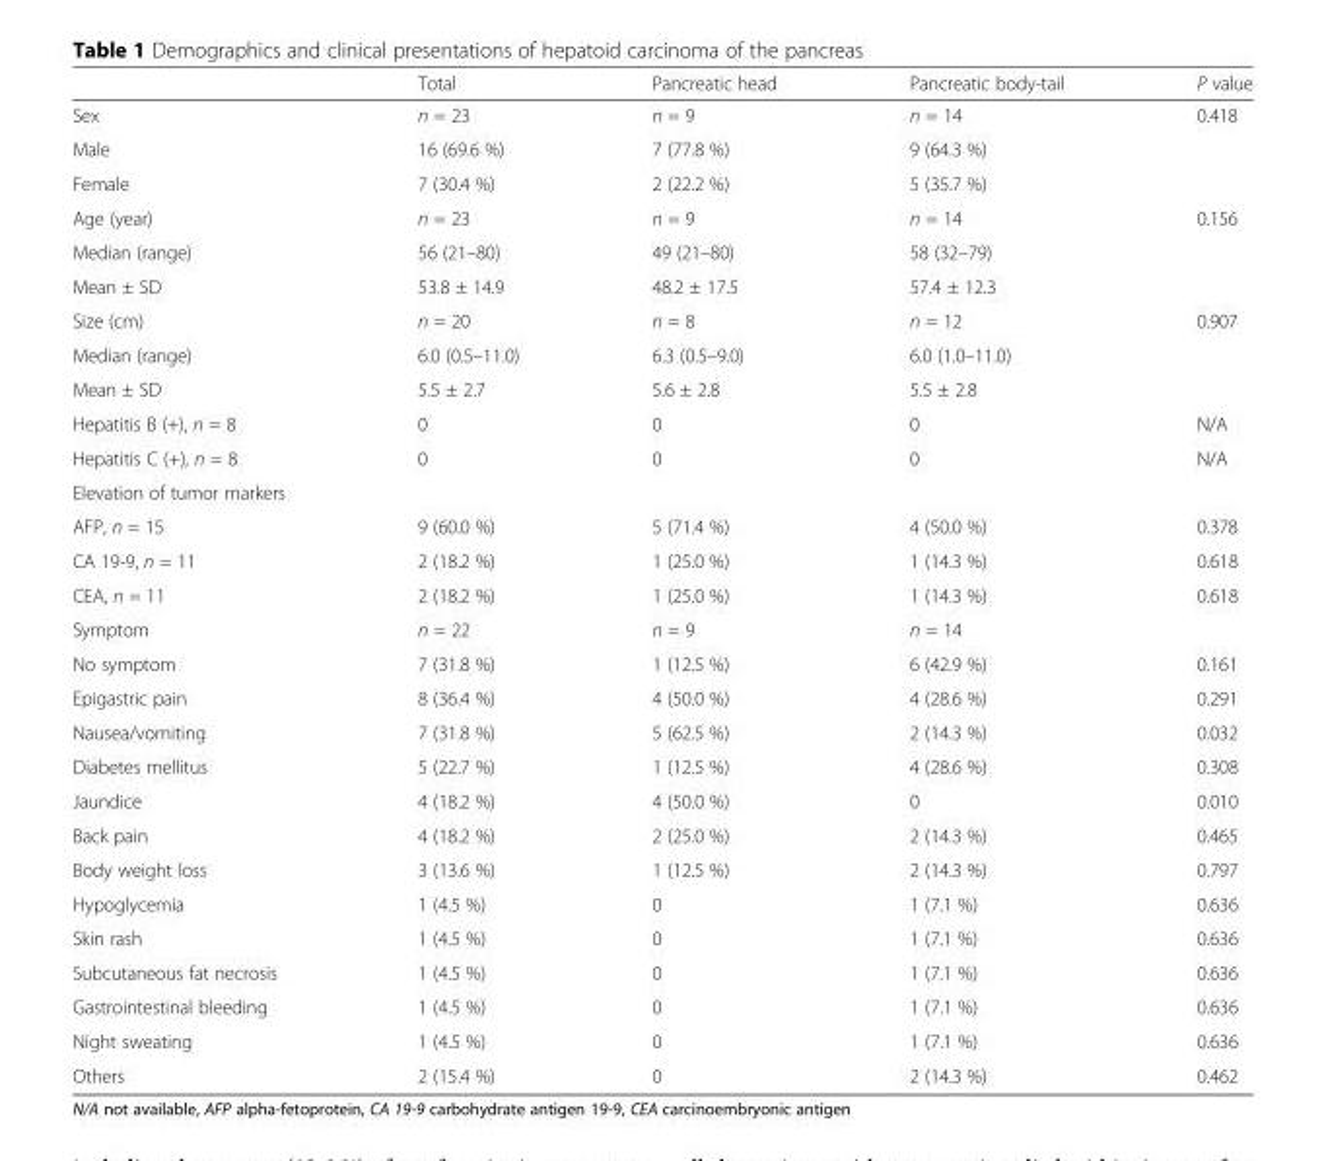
<table><thead><tr><td></td><td>Total</td><td>Pancreatic head</td><td>Pancreatic body-tail</td><td>P value</td></tr></thead><tbody><tr><td>Sex</td><td>n = 23</td><td>n = 9</td><td>n = 14</td><td>0.418</td></tr><tr><td>Male</td><td>16 (69.6 %)</td><td>7 (77.8 %)</td><td>9 (64.3 %)</td><td rowspan="2"></td></tr><tr><td>Female</td><td>7 (30.4 %)</td><td>2 (22.2 %)</td><td>5 (35.7 %)</td></tr><tr><td>Age (year)</td><td>n = 23</td><td>n = 9</td><td>n = 14</td><td>0.156</td></tr><tr><td>Median (range)</td><td>56 (21–80)</td><td>49 (21–80)</td><td>58 (32–79)</td><td rowspan="2"></td></tr><tr><td>Mean ± SD</td><td>53.8 ± 14.9</td><td>48.2 ± 17.5</td><td>57.4 ± 12.3</td></tr><tr><td>Size (cm)</td><td>n = 20</td><td>n = 8</td><td>n = 12</td><td>0.907</td></tr><tr><td>Median (range)</td><td>6.0 (0.5–11.0)</td><td>6.3 (0.5–9.0)</td><td>6.0 (1.0–11.0)</td><td rowspan="2"></td></tr><tr><td>Mean ± SD</td><td>5.5 ± 2.7</td><td>5.6 ± 2.8</td><td>5.5 ± 2.8</td></tr><tr><td>Hepatitis B (+), n = 8</td><td>0</td><td>0</td><td>0</td><td>N/A</td></tr><tr><td>Hepatitis C (+), n = 8</td><td>0</td><td>0</td><td>0</td><td>N/A</td></tr><tr><td colspan="5">Elevation of tumor markers</td></tr><tr><td>AFP, n = 15</td><td>9 (60.0 %)</td><td>5 (71.4 %)</td><td>4 (50.0 %)</td><td>0.378</td></tr><tr><td>CA 19-9, n = 11</td><td>2 (18.2 %)</td><td>1 (25.0 %)</td><td>1 (14.3 %)</td><td>0.618</td></tr><tr><td>CEA, n = 11</td><td>2 (18.2 %)</td><td>1 (25.0 %)</td><td>1 (14.3 %)</td><td>0.618</td></tr><tr><td>Symptom</td><td>n = 22</td><td>n = 9</td><td>n = 14</td><td></td></tr><tr><td>No symptom</td><td>7 (31.8 %)</td><td>1 (12.5 %)</td><td>6 (42.9 %)</td><td>0.161</td></tr><tr><td>Epigastric pain</td><td>8 (36.4 %)</td><td>4 (50.0 %)</td><td>4 (28.6 %)</td><td>0.291</td></tr><tr><td>Nausea/vomiting</td><td>7 (31.8 %)</td><td>5 (62.5 %)</td><td>2 (14.3 %)</td><td>0.032</td></tr><tr><td>Diabetes mellitus</td><td>5 (22.7 %)</td><td>1 (12.5 %)</td><td>4 (28.6 %)</td><td>0.308</td></tr><tr><td>Jaundice</td><td>4 (18.2 %)</td><td>4 (50.0 %)</td><td>0</td><td>0.010</td></tr><tr><td>Back pain</td><td>4 (18.2 %)</td><td>2 (25.0 %)</td><td>2 (14.3 %)</td><td>0.465</td></tr><tr><td>Body weight loss</td><td>3 (13.6 %)</td><td>1 (12.5 %)</td><td>2 (14.3 %)</td><td>0.797</td></tr><tr><td>Hypoglycemia</td><td>1 (4.5 %)</td><td>0</td><td>1 (7.1 %)</td><td>0.636</td></tr><tr><td>Skin rash</td><td>1 (4.5 %)</td><td>0</td><td>1 (7.1 %)</td><td>0.636</td></tr><tr><td>Subcutaneous fat necrosis</td><td>1 (4.5 %)</td><td>0</td><td>1 (7.1 %)</td><td>0.636</td></tr><tr><td>Gastrointestinal bleeding</td><td>1 (4.5 %)</td><td>0</td><td>1 (7.1 %)</td><td>0.636</td></tr><tr><td>Night sweating</td><td>1 (4.5 %)</td><td>0</td><td>1 (7.1 %)</td><td>0.636</td></tr><tr><td>Others</td><td>2 (15.4 %)</td><td>0</td><td>2 (14.3 %)</td><td>0.462</td></tr></tbody></table>